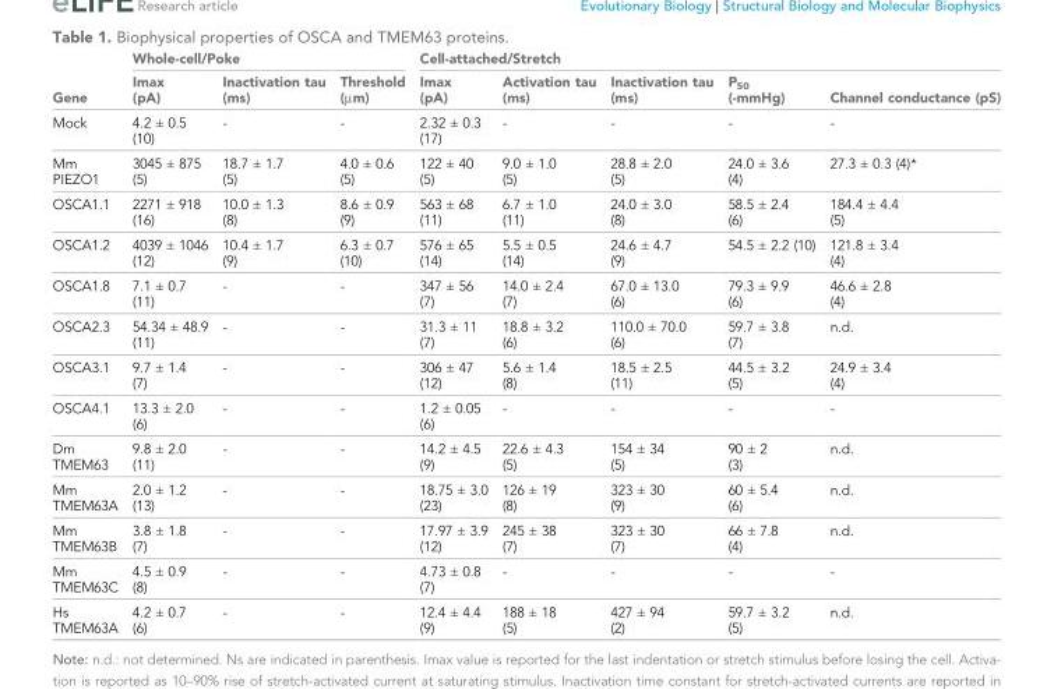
<table><thead><tr><td rowspan="2">Gene</td><td colspan="3">Whole-cell/Poke</td><td colspan="5">Cell-attached/Stretch</td></tr><tr><td>Imax (pA)</td><td>Inactivation tau (ms)</td><td>Threshold (µm)</td><td>Imax (pA)</td><td>Activation tau (ms)</td><td>Inactivation tau (ms)</td><td>P<sub>50</sub> (-mmHg)</td><td>Channel conductance (pS)</td></tr></thead><tbody><tr><td>Mock</td><td>4.2 ± 0.5 (10)</td><td>-</td><td>-</td><td>2.32 ± 0.3 (17)</td><td>-</td><td>-</td><td>-</td><td>-</td></tr><tr><td>Mm PIEZO1</td><td>3045 ± 875 (5)</td><td>18.7 ± 1.7 (5)</td><td>4.0 ± 0.6 (5)</td><td>122 ± 40 (5)</td><td>9.0 ± 1.0 (5)</td><td>28.8 ± 2.0 (5)</td><td>24.0 ± 3.6 (4)</td><td>27.3 ± 0.3 (4)*</td></tr><tr><td>OSCA1.1</td><td>2271 ± 918 (16)</td><td>10.0 ± 1.3 (8)</td><td>8.6 ± 0.9 (9)</td><td>563 ± 68 (11)</td><td>6.7 ± 1.0 (11)</td><td>24.0 ± 3.0 (8)</td><td>58.5 ± 2.4 (6)</td><td>184.4 ± 4.4 (5)</td></tr><tr><td>OSCA1.2</td><td>4039 ± 1046 (12)</td><td>10.4 ± 1.7 (9)</td><td>6.3 ± 0.7 (10)</td><td>576 ± 65 (14)</td><td>5.5 ± 0.5 (14)</td><td>24.6 ± 4.7 (9)</td><td>54.5 ± 2.2 (10)</td><td>121.8 ± 3.4 (4)</td></tr><tr><td>OSCA1.8</td><td>7.1 ± 0.7 (11)</td><td>-</td><td>-</td><td>347 ± 56 (7)</td><td>14.0 ± 2.4 (7)</td><td>67.0 ± 13.0 (6)</td><td>79.3 ± 9.9 (6)</td><td>46.6 ± 2.8 (4)</td></tr><tr><td>OSCA2.3</td><td>54.34 ± 48.9 (11)</td><td>-</td><td>-</td><td>31.3 ± 11 (7)</td><td>18.8 ± 3.2 (6)</td><td>110.0 ± 70.0 (6)</td><td>59.7 ± 3.8 (7)</td><td>n.d.</td></tr><tr><td>OSCA3.1</td><td>9.7 ± 1.4 (7)</td><td>-</td><td>-</td><td>306 ± 47 (12)</td><td>5.6 ± 1.4 (8)</td><td>18.5 ± 2.5 (11)</td><td>44.5 ± 3.2 (5)</td><td>24.9 ± 3.4 (4)</td></tr><tr><td>OSCA4.1</td><td>13.3 ± 2.0 (6)</td><td>-</td><td>-</td><td>1.2 ± 0.05 (6)</td><td>-</td><td>-</td><td>-</td><td>-</td></tr><tr><td>Dm TMEM63</td><td>9.8 ± 2.0 (11)</td><td>-</td><td>-</td><td>14.2 ± 4.5 (9)</td><td>22.6 ± 4.3 (5)</td><td>154 ± 34 (5)</td><td>90 ± 2 (3)</td><td>n.d.</td></tr><tr><td>Mm TMEM63A</td><td>2.0 ± 1.2 (13)</td><td>-</td><td>-</td><td>18.75 ± 3.0 (23)</td><td>126 ± 19 (8)</td><td>323 ± 30 (9)</td><td>60 ± 5.4 (6)</td><td>n.d.</td></tr><tr><td>Mm TMEM63B</td><td>3.8 ± 1.8 (7)</td><td>-</td><td>-</td><td>17.97 ± 3.9 (12)</td><td>245 ± 38 (7)</td><td>323 ± 30 (7)</td><td>66 ± 7.8 (4)</td><td>n.d.</td></tr><tr><td>Mm TMEM63C</td><td>4.5 ± 0.9 (8)</td><td>-</td><td>-</td><td>4.73 ± 0.8 (7)</td><td>-</td><td>-</td><td>-</td><td>-</td></tr><tr><td>Hs TMEM63A</td><td>4.2 ± 0.7 (6)</td><td>-</td><td>-</td><td>12.4 ± 4.4 (9)</td><td>188 ± 18 (5)</td><td>427 ± 94 (2)</td><td>59.7 ± 3.2 (5)</td><td>n.d.</td></tr></tbody></table>